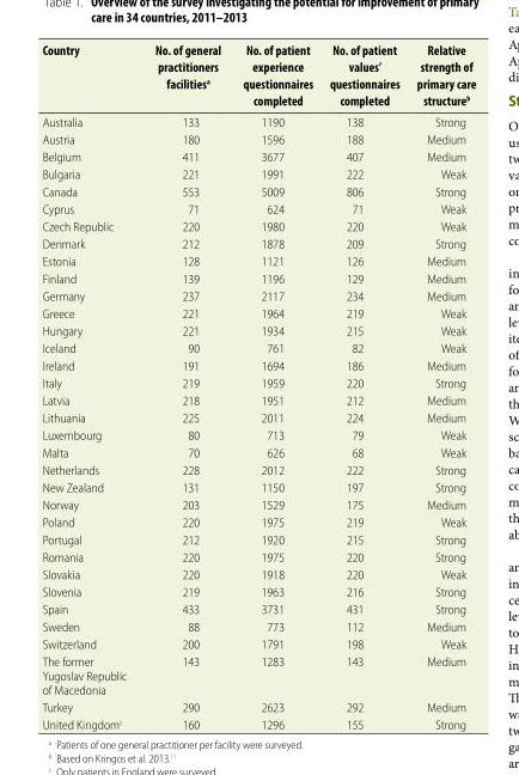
<table><thead><tr><td>Country</td><td>No. of general practitioners facilities<sup>a</sup></td><td>No. of patient experience questionnaires completed</td><td>No. of patient values’ questionnaires completed</td><td>Relative strength of primary care structure<sup>b</sup></td></tr></thead><tbody><tr><td>Australia</td><td>133</td><td>1190</td><td>138</td><td>Strong</td></tr><tr><td>Austria</td><td>180</td><td>1596</td><td>188</td><td>Medium</td></tr><tr><td>Belgium</td><td>411</td><td>3677</td><td>407</td><td>Medium</td></tr><tr><td>Bulgaria</td><td>221</td><td>1991</td><td>222</td><td>Weak</td></tr><tr><td>Canada</td><td>553</td><td>5009</td><td>806</td><td>Strong</td></tr><tr><td>Cyprus</td><td>71</td><td>624</td><td>71</td><td>Weak</td></tr><tr><td>Czech Republic</td><td>220</td><td>1980</td><td>220</td><td>Weak</td></tr><tr><td>Denmark</td><td>212</td><td>1878</td><td>209</td><td>Strong</td></tr><tr><td>Estonia</td><td>128</td><td>1121</td><td>126</td><td>Medium</td></tr><tr><td>Finland</td><td>139</td><td>1196</td><td>129</td><td>Medium</td></tr><tr><td>Germany</td><td>237</td><td>2117</td><td>234</td><td>Medium</td></tr><tr><td>Greece</td><td>221</td><td>1964</td><td>219</td><td>Weak</td></tr><tr><td>Hungary</td><td>221</td><td>1934</td><td>215</td><td>Weak</td></tr><tr><td>Iceland</td><td>90</td><td>761</td><td>82</td><td>Weak</td></tr><tr><td>Ireland</td><td>191</td><td>1694</td><td>186</td><td>Medium</td></tr><tr><td>Italy</td><td>219</td><td>1959</td><td>220</td><td>Strong</td></tr><tr><td>Latvia</td><td>218</td><td>1951</td><td>212</td><td>Medium</td></tr><tr><td>Lithuania</td><td>225</td><td>2011</td><td>224</td><td>Medium</td></tr><tr><td>Luxembourg</td><td>80</td><td>713</td><td>79</td><td>Weak</td></tr><tr><td>Malta</td><td>70</td><td>626</td><td>68</td><td>Weak</td></tr><tr><td>Netherlands</td><td>228</td><td>2012</td><td>222</td><td>Strong</td></tr><tr><td>New Zealand</td><td>131</td><td>1150</td><td>197</td><td>Strong</td></tr><tr><td>Norway</td><td>203</td><td>1529</td><td>175</td><td>Medium</td></tr><tr><td>Poland</td><td>220</td><td>1975</td><td>219</td><td>Weak</td></tr><tr><td>Portugal</td><td>212</td><td>1920</td><td>215</td><td>Strong</td></tr><tr><td>Romania</td><td>220</td><td>1975</td><td>220</td><td>Strong</td></tr><tr><td>Slovakia</td><td>220</td><td>1918</td><td>220</td><td>Weak</td></tr><tr><td>Slovenia</td><td>219</td><td>1963</td><td>216</td><td>Strong</td></tr><tr><td>Spain</td><td>433</td><td>3731</td><td>431</td><td>Strong</td></tr><tr><td>Sweden</td><td>88</td><td>773</td><td>112</td><td>Medium</td></tr><tr><td>Switzerland</td><td>200</td><td>1791</td><td>198</td><td>Weak</td></tr><tr><td>The former Yugoslav Republic of Macedonia</td><td>143</td><td>1283</td><td>143</td><td>Medium</td></tr><tr><td>Turkey</td><td>290</td><td>2623</td><td>292</td><td>Medium</td></tr><tr><td>United Kingdom<sup>c</sup></td><td>160</td><td>1296</td><td>155</td><td>Strong</td></tr></tbody></table>